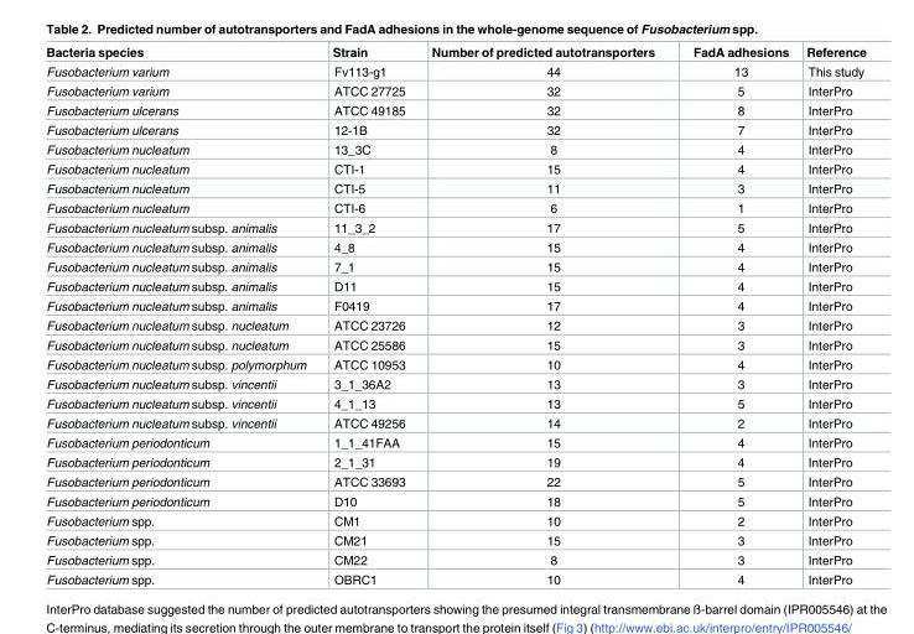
<table><thead><tr><td>Bacteria species</td><td>Strain</td><td>Number of predicted autotransporters</td><td>FadA adhesions</td><td>Reference</td></tr></thead><tbody><tr><td>Fusobacterium varium</td><td>Fv113-g1</td><td>44</td><td>13</td><td>This study</td></tr><tr><td>Fusobacterium varium</td><td>ATCC 27725</td><td>32</td><td>5</td><td>InterPro</td></tr><tr><td>Fusobacterium ulcerans</td><td>ATCC 49185</td><td>32</td><td>8</td><td>InterPro</td></tr><tr><td>Fusobacterium ulcerans</td><td>12-1B</td><td>32</td><td>7</td><td>InterPro</td></tr><tr><td>Fusobacterium nucleatum</td><td>13_3C</td><td>8</td><td>4</td><td>InterPro</td></tr><tr><td>Fusobacterium nucleatum</td><td>CTI-1</td><td>15</td><td>4</td><td>InterPro</td></tr><tr><td>Fusobacterium nucleatum</td><td>CTI-5</td><td>11</td><td>3</td><td>InterPro</td></tr><tr><td>Fusobacterium nucleatum</td><td>CTI-6</td><td>6</td><td>1</td><td>InterPro</td></tr><tr><td>Fusobacterium nucleatum subsp. animalis</td><td>11_3_2</td><td>17</td><td>5</td><td>InterPro</td></tr><tr><td>Fusobacterium nucleatum subsp. animalis</td><td>4_8</td><td>15</td><td>4</td><td>InterPro</td></tr><tr><td>Fusobacterium nucleatum subsp. animalis</td><td>7_1</td><td>15</td><td>4</td><td>InterPro</td></tr><tr><td>Fusobacterium nucleatum subsp. animalis</td><td>D11</td><td>15</td><td>4</td><td>InterPro</td></tr><tr><td>Fusobacterium nucleatum subsp. animalis</td><td>F0419</td><td>17</td><td>4</td><td>InterPro</td></tr><tr><td>Fusobacterium nucleatum subsp. nucleatum</td><td>ATCC 23726</td><td>12</td><td>3</td><td>InterPro</td></tr><tr><td>Fusobacterium nucleatum subsp. nucleatum</td><td>ATCC 25586</td><td>15</td><td>3</td><td>InterPro</td></tr><tr><td>Fusobacterium nucleatum subsp. polymorphum</td><td>ATCC 10953</td><td>10</td><td>4</td><td>InterPro</td></tr><tr><td>Fusobacterium nucleatum subsp. vincentii</td><td>3_1_36A2</td><td>13</td><td>3</td><td>InterPro</td></tr><tr><td>Fusobacterium nucleatum subsp. vincentii</td><td>4_1_13</td><td>13</td><td>5</td><td>InterPro</td></tr><tr><td>Fusobacterium nucleatum subsp. vincentii</td><td>ATCC 49256</td><td>14</td><td>2</td><td>InterPro</td></tr><tr><td>Fusobacterium periodonticum</td><td>1_1_41FAA</td><td>15</td><td>4</td><td>InterPro</td></tr><tr><td>Fusobacterium periodonticum</td><td>2_1_31</td><td>19</td><td>4</td><td>InterPro</td></tr><tr><td>Fusobacterium periodonticum</td><td>ATCC 33693</td><td>22</td><td>5</td><td>InterPro</td></tr><tr><td>Fusobacterium periodonticum</td><td>D10</td><td>18</td><td>5</td><td>InterPro</td></tr><tr><td>Fusobacterium spp.</td><td>CM1</td><td>10</td><td>2</td><td>InterPro</td></tr><tr><td>Fusobacterium spp.</td><td>CM21</td><td>15</td><td>3</td><td>InterPro</td></tr><tr><td>Fusobacterium spp.</td><td>CM22</td><td>8</td><td>3</td><td>InterPro</td></tr><tr><td>Fusobacterium spp.</td><td>OBRC1</td><td>10</td><td>4</td><td>InterPro</td></tr></tbody></table>